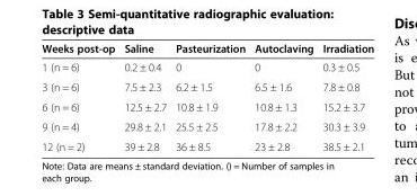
<table><thead><tr><td>Weeks post-op</td><td>Saline</td><td>Pasteurization</td><td>Autoclaving</td><td>Irradiation</td></tr></thead><tbody><tr><td>1 (n = 6)</td><td>0.2 ± 0.4</td><td>0</td><td>0</td><td>0.3 ± 0.5</td></tr><tr><td>3 (n = 6)</td><td>7.5 ± 2.3</td><td>6.2 ± 1.5</td><td>6.5 ± 1.6</td><td>7.8 ± 0.8</td></tr><tr><td>6 (n = 6)</td><td>12.5 ± 2.7</td><td>10.8 ± 1.9</td><td>10.8 ± 1.3</td><td>15.2 ± 3.7</td></tr><tr><td>9 (n = 4)</td><td>29.8 ± 2.1</td><td>25.5 ± 2.5</td><td>17.8 ± 2.2</td><td>30.3 ± 3.9</td></tr><tr><td>12 (n = 2)</td><td>39 ± 2.8</td><td>36 ± 8.5</td><td>23 ± 2.8</td><td>38.5 ± 2.1</td></tr></tbody></table>